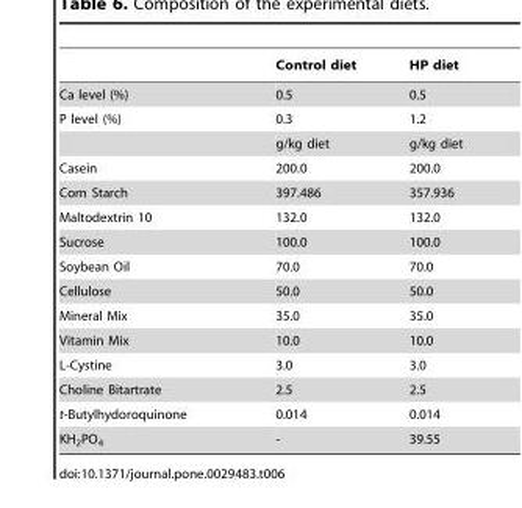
<table><thead><tr><td></td><td>Control diet</td><td>HP diet</td></tr></thead><tbody><tr><td>Ca level (%)</td><td>0.5</td><td>0.5</td></tr><tr><td rowspan="2">P level (%)</td><td>0.3</td><td>1.2</td></tr><tr><td>g/kg diet</td><td>g/kg diet</td></tr><tr><td>Casein</td><td>200.0</td><td>200.0</td></tr><tr><td>Corn Starch</td><td>397.486</td><td>357.936</td></tr><tr><td>Maltodextrin 10</td><td>132.0</td><td>132.0</td></tr><tr><td>Sucrose</td><td>100.0</td><td>100.0</td></tr><tr><td>Soybean Oil</td><td>70.0</td><td>70.0</td></tr><tr><td>Cellulose</td><td>50.0</td><td>50.0</td></tr><tr><td>Mineral Mix</td><td>35.0</td><td>35.0</td></tr><tr><td>Vitamin Mix</td><td>10.0</td><td>10.0</td></tr><tr><td>L-Cystine</td><td>3.0</td><td>3.0</td></tr><tr><td>Choline Bitartrate</td><td>2.5</td><td>2.5</td></tr><tr><td>t-Butylhydoroquinone</td><td>0.014</td><td>0.014</td></tr><tr><td>KH<sub>2</sub>PO<sub>4</sub></td><td>-</td><td>39.55</td></tr></tbody></table>